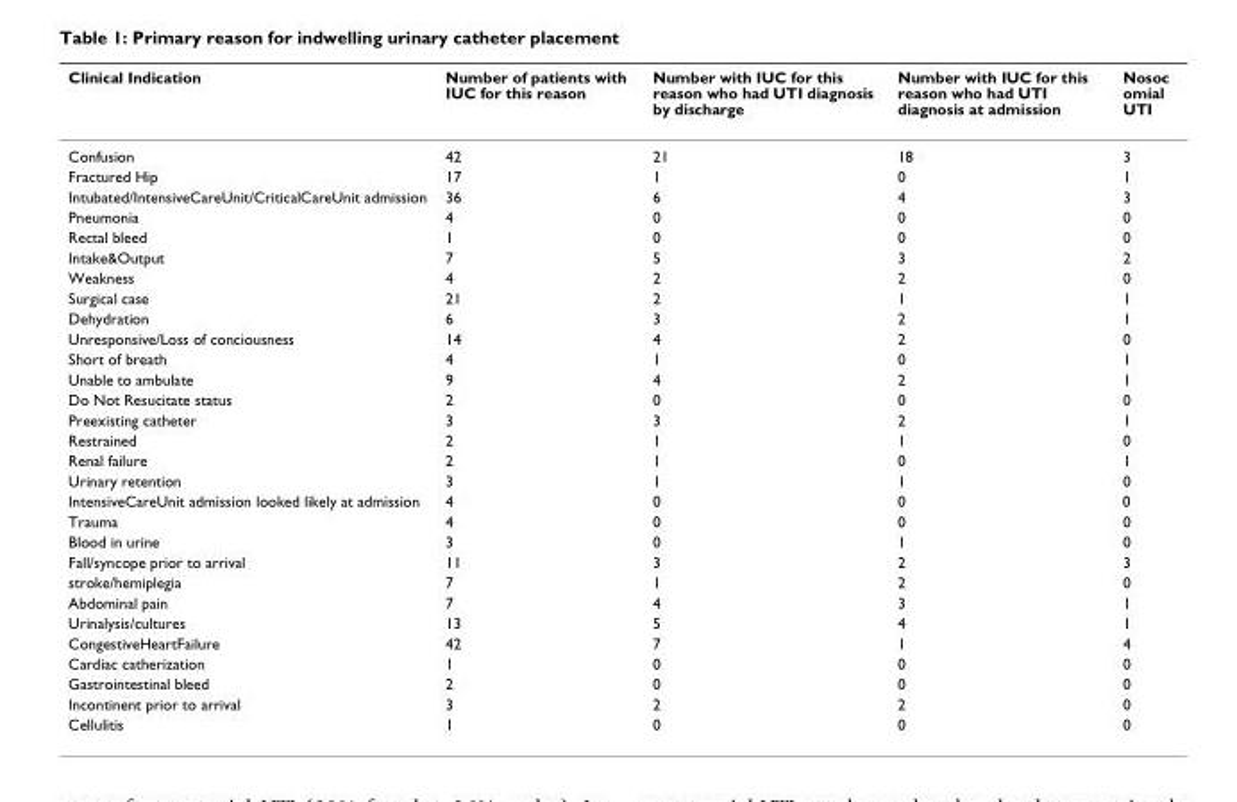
<table><thead><tr><td>Clinical Indication</td><td>Number of patients with IUC for this reason</td><td>Number with IUC for this reason who had UTI diagnosis by discharge</td><td>Number with IUC for this reason who had UTI diagnosis at admission</td><td>Nosoc omial UTI</td></tr></thead><tbody><tr><td>Confusion</td><td>42</td><td>21</td><td>18</td><td>3</td></tr><tr><td>Fractured Hip</td><td>17</td><td>1</td><td>0</td><td>1</td></tr><tr><td>Intubated/IntensiveCareUnit/CriticalCareUnit admission</td><td>36</td><td>6</td><td>4</td><td>3</td></tr><tr><td>Pneumonia</td><td>4</td><td>0</td><td>0</td><td>0</td></tr><tr><td>Rectal bleed</td><td>1</td><td>0</td><td>0</td><td>0</td></tr><tr><td>Intake&amp;Output</td><td>7</td><td>5</td><td>3</td><td>2</td></tr><tr><td>Weakness</td><td>4</td><td>2</td><td>2</td><td>0</td></tr><tr><td>Surgical case</td><td>21</td><td>2</td><td>1</td><td>1</td></tr><tr><td>Dehydration</td><td>6</td><td>3</td><td>2</td><td>1</td></tr><tr><td>Unresponsive/Loss of conciousness</td><td>14</td><td>4</td><td>2</td><td>0</td></tr><tr><td>Short of breath</td><td>4</td><td>1</td><td>0</td><td>1</td></tr><tr><td>Unable to ambulate</td><td>9</td><td>4</td><td>2</td><td>1</td></tr><tr><td>Do Not Resucitate status</td><td>2</td><td>0</td><td>0</td><td>0</td></tr><tr><td>Preexisting catheter</td><td>3</td><td>3</td><td>2</td><td>1</td></tr><tr><td>Restrained</td><td>2</td><td>1</td><td>1</td><td>0</td></tr><tr><td>Renal failure</td><td>2</td><td>1</td><td>0</td><td>1</td></tr><tr><td>Urinary retention</td><td>3</td><td>1</td><td>1</td><td>0</td></tr><tr><td>IntensiveCareUnit admission looked likely at admission</td><td>4</td><td>0</td><td>0</td><td>0</td></tr><tr><td>Trauma</td><td>4</td><td>0</td><td>0</td><td>0</td></tr><tr><td>Blood in urine</td><td>3</td><td>0</td><td>1</td><td>0</td></tr><tr><td>Fall/syncope prior to arrival</td><td>11</td><td>3</td><td>2</td><td>3</td></tr><tr><td>stroke/hemiplegia</td><td>7</td><td>1</td><td>2</td><td>0</td></tr><tr><td>Abdominal pain</td><td>7</td><td>4</td><td>3</td><td>1</td></tr><tr><td>Urinalysis/cultures</td><td>13</td><td>5</td><td>4</td><td>1</td></tr><tr><td>CongestiveHeartFailure</td><td>42</td><td>7</td><td>1</td><td>4</td></tr><tr><td>Cardiac catherization</td><td>1</td><td>0</td><td>0</td><td>0</td></tr><tr><td>Gastrointestinal bleed</td><td>2</td><td>0</td><td>0</td><td>0</td></tr><tr><td>Incontinent prior to arrival</td><td>3</td><td>2</td><td>2</td><td>0</td></tr><tr><td>Cellulitis</td><td>1</td><td>0</td><td>0</td><td>0</td></tr></tbody></table>